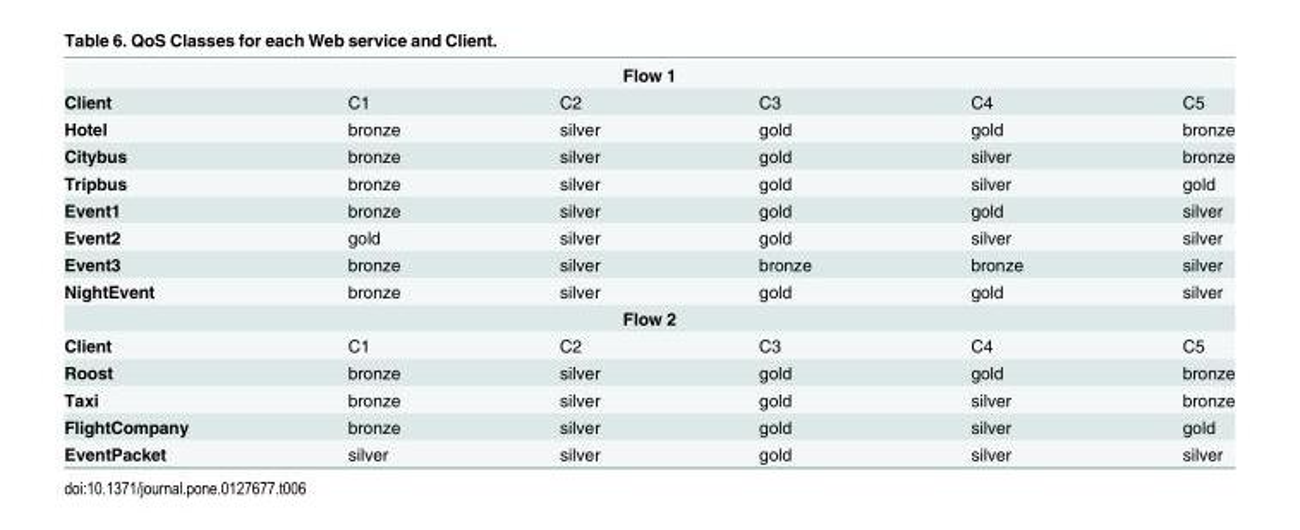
<table><tbody><tr><td colspan="6">Flow 1</td></tr><tr><td>Client</td><td>C1</td><td>C2</td><td>C3</td><td>C4</td><td>C5</td></tr><tr><td>Hotel</td><td>bronze</td><td>silver</td><td>gold</td><td>gold</td><td>bronze</td></tr><tr><td>Citybus</td><td>bronze</td><td>silver</td><td>gold</td><td>silver</td><td>bronze</td></tr><tr><td>Tripbus</td><td>bronze</td><td>silver</td><td>gold</td><td>silver</td><td>gold</td></tr><tr><td>Event1</td><td>bronze</td><td>silver</td><td>gold</td><td>gold</td><td>silver</td></tr><tr><td>Event2</td><td>gold</td><td>silver</td><td>gold</td><td>silver</td><td>silver</td></tr><tr><td>Event3</td><td>bronze</td><td>silver</td><td>bronze</td><td>bronze</td><td>silver</td></tr><tr><td>NightEvent</td><td>bronze</td><td>silver</td><td>gold</td><td>gold</td><td>silver</td></tr><tr><td colspan="6">Flow 2</td></tr><tr><td>Client</td><td>C1</td><td>C2</td><td>C3</td><td>C4</td><td>C5</td></tr><tr><td>Roost</td><td>bronze</td><td>silver</td><td>gold</td><td>gold</td><td>bronze</td></tr><tr><td>Taxi</td><td>bronze</td><td>silver</td><td>gold</td><td>silver</td><td>bronze</td></tr><tr><td>FlightCompany</td><td>bronze</td><td>silver</td><td>gold</td><td>silver</td><td>gold</td></tr><tr><td>EventPacket</td><td>silver</td><td>silver</td><td>gold</td><td>silver</td><td>silver</td></tr></tbody></table>